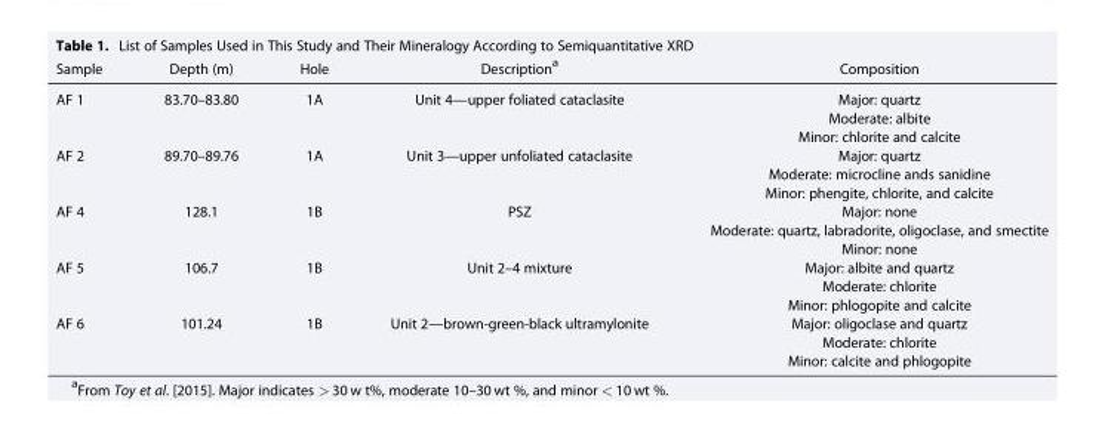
<table><thead><tr><td>Sample</td><td>Depth (m)</td><td>Hole</td><td>Description<sup>a</sup></td><td>Composition</td></tr></thead><tbody><tr><td rowspan="3">AF 1</td><td rowspan="3">83.70–83.80</td><td rowspan="3">1A</td><td rowspan="3">Unit 4—upper foliated cataclasite</td><td>Major: quartz</td></tr><tr><td>Moderate: albite</td></tr><tr><td>Minor: chlorite and calcite</td></tr><tr><td rowspan="3">AF 2</td><td rowspan="3">89.70–89.76</td><td rowspan="3">1A</td><td rowspan="3">Unit 3—upper unfoliated cataclasite</td><td>Major: quartz</td></tr><tr><td>Moderate: microcline ands sanidine</td></tr><tr><td>Minor: phengite, chlorite, and calcite</td></tr><tr><td rowspan="3">AF 4</td><td rowspan="3">128.1</td><td rowspan="3">1B</td><td rowspan="3">PSZ</td><td>Major: none</td></tr><tr><td>Moderate: quartz, labradorite, oligoclase, and smectite</td></tr><tr><td>Minor: none</td></tr><tr><td rowspan="3">AF 5</td><td rowspan="3">106.7</td><td rowspan="3">1B</td><td rowspan="3">Unit 2–4 mixture</td><td>Major: albite and quartz</td></tr><tr><td>Moderate: chlorite</td></tr><tr><td>Minor: phlogopite and calcite</td></tr><tr><td rowspan="3">AF 6</td><td rowspan="3">101.24</td><td rowspan="3">1B</td><td rowspan="3">Unit 2—brown-green-black ultramylonite</td><td>Major: oligoclase and quartz</td></tr><tr><td>Moderate: chlorite</td></tr><tr><td>Minor: calcite and phlogopite</td></tr></tbody></table>